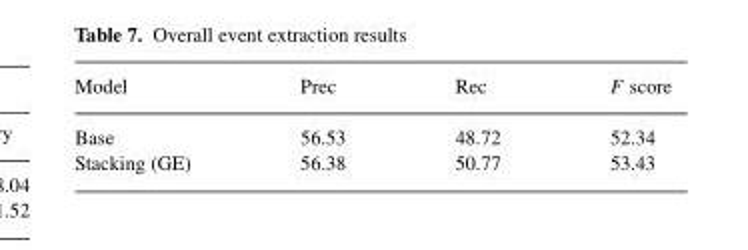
<table><thead><tr><td>Model</td><td>Prec</td><td>Rec</td><td>F score</td></tr></thead><tbody><tr><td>Base</td><td>56.53</td><td>48.72</td><td>52.34</td></tr><tr><td>Stacking (GE)</td><td>56.38</td><td>50.77</td><td>53.43</td></tr></tbody></table>